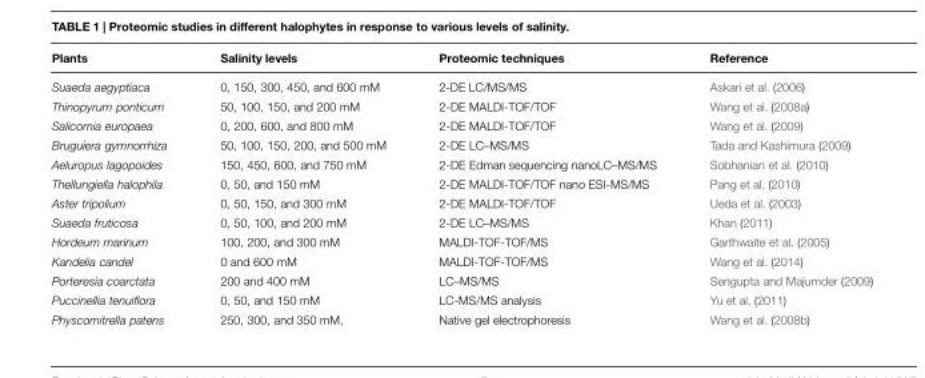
<table><thead><tr><td>Plants</td><td>Salinity levels</td><td>Proteomic techniques</td><td>Reference</td></tr></thead><tbody><tr><td>Suaeda aegyptiaca</td><td>0, 150, 300, 450, and 600 mM</td><td>2-DE LC/MS/MS</td><td>Askari et al. (2006)</td></tr><tr><td>Thinopyrum ponticum</td><td>50, 100, 150, and 200 mM</td><td>2-DE MALDI-TOF/TOF</td><td>Wang et al. (2008a)</td></tr><tr><td>Salicornia europaea</td><td>0, 200, 600, and 800 mM</td><td>2-DE MALDI-TOF/TOF</td><td>Wang et al. (2009)</td></tr><tr><td>Bruguiera gymnorrhiza</td><td>50, 100, 150, 200, and 500 mM</td><td>2-DE LC–MS/MS</td><td>Tada and Kashimura (2009)</td></tr><tr><td>Aeluropus lagopoides</td><td>150, 450, 600, and 750 mM</td><td>2-DE Edman sequencing nanoLC–MS/MS</td><td>Sobhanian et al. (2010)</td></tr><tr><td>Thellungiella halophila</td><td>0, 50, and 150 mM</td><td>2-DE MALDI-TOF/TOF nano ESI-MS/MS</td><td>Pang et al. (2010)</td></tr><tr><td>Aster tripolium</td><td>0, 50, 150, and 300 mM</td><td>2-DE MALDI-TOF/TOF</td><td>Ueda et al. (2003)</td></tr><tr><td>Suaeda fruticosa</td><td>0, 50, 100, and 200 mM</td><td>2-DE LC–MS/MS</td><td>Khan (2011)</td></tr><tr><td>Hordeum marinum</td><td>100, 200, and 300 mM</td><td>MALDI-TOF-TOF/MS</td><td>Garthwaite et al. (2005)</td></tr><tr><td>Kandelia candel</td><td>0 and 600 mM</td><td>MALDI-TOF-TOF/MS</td><td>Wang et al. (2014)</td></tr><tr><td>Porteresia coarctata</td><td>200 and 400 mM</td><td>LC–MS/MS</td><td>Sengupta and Majumder (2009)</td></tr><tr><td>Puccinellia tenuiflora</td><td>0, 50, and 150 mM</td><td>LC-MS/MS analysis</td><td>Yu et al. (2011)</td></tr><tr><td>Physcomitrella patens</td><td>250, 300, and 350 mM,</td><td>Native gel electrophoresis</td><td>Wang et al. (2008b)</td></tr></tbody></table>